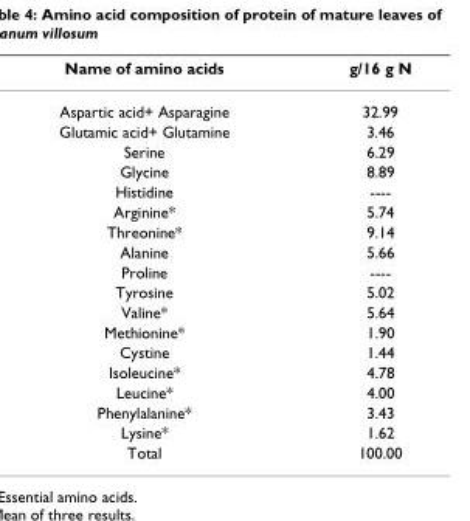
<table><thead><tr><td>Name of amino acids</td><td>g/16 g N</td></tr></thead><tbody><tr><td>Aspartic acid+ Asparagine</td><td>32.99</td></tr><tr><td>Glutamic acid+ Glutamine</td><td>3.46</td></tr><tr><td>Serine</td><td>6.29</td></tr><tr><td>Glycine</td><td>8.89</td></tr><tr><td>Histidine</td><td>----</td></tr><tr><td>Arginine*</td><td>5.74</td></tr><tr><td>Threonine*</td><td>9.14</td></tr><tr><td>Alanine</td><td>5.66</td></tr><tr><td>Proline</td><td>----</td></tr><tr><td>Tyrosine</td><td>5.02</td></tr><tr><td>Valine*</td><td>5.64</td></tr><tr><td>Methionine*</td><td>1.90</td></tr><tr><td>Cystine</td><td>1.44</td></tr><tr><td>Isoleucine*</td><td>4.78</td></tr><tr><td>Leucine*</td><td>4.00</td></tr><tr><td>Phenylalanine*</td><td>3.43</td></tr><tr><td>Lysine*</td><td>1.62</td></tr><tr><td>Total</td><td>100.00</td></tr></tbody></table>